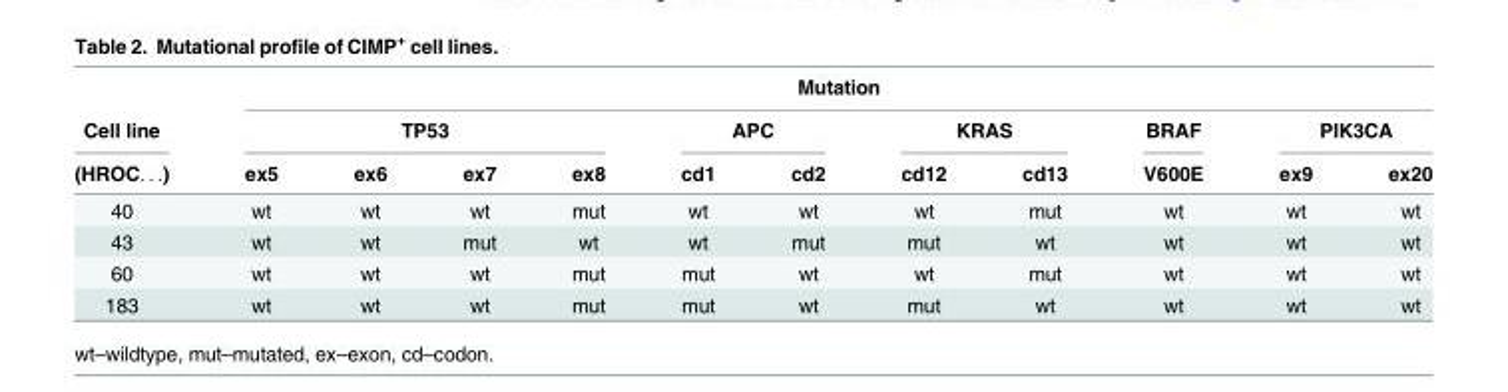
<table><thead><tr><td rowspan="3">Cell line (HROC. . .)</td><td colspan="11">Mutation</td></tr><tr><td colspan="4">TP53</td><td colspan="2">APC</td><td colspan="2">KRAS</td><td rowspan="2">BRAF V600E</td><td colspan="2">PIK3CA</td></tr><tr><td>ex5</td><td>ex6</td><td>ex7</td><td>ex8</td><td>cd1</td><td>cd2</td><td>cd12</td><td>cd13</td><td>ex9</td><td>ex20</td></tr></thead><tbody><tr><td>40</td><td>wt</td><td>wt</td><td>wt</td><td>mut</td><td>wt</td><td>wt</td><td>wt</td><td>mut</td><td>wt</td><td>wt</td><td>wt</td></tr><tr><td>43</td><td>wt</td><td>wt</td><td>mut</td><td>wt</td><td>wt</td><td>mut</td><td>mut</td><td>wt</td><td>wt</td><td>wt</td><td>wt</td></tr><tr><td>60</td><td>wt</td><td>wt</td><td>wt</td><td>mut</td><td>mut</td><td>wt</td><td>wt</td><td>mut</td><td>wt</td><td>wt</td><td>wt</td></tr><tr><td>183</td><td>wt</td><td>wt</td><td>wt</td><td>mut</td><td>mut</td><td>wt</td><td>mut</td><td>wt</td><td>wt</td><td>wt</td><td>wt</td></tr></tbody></table>